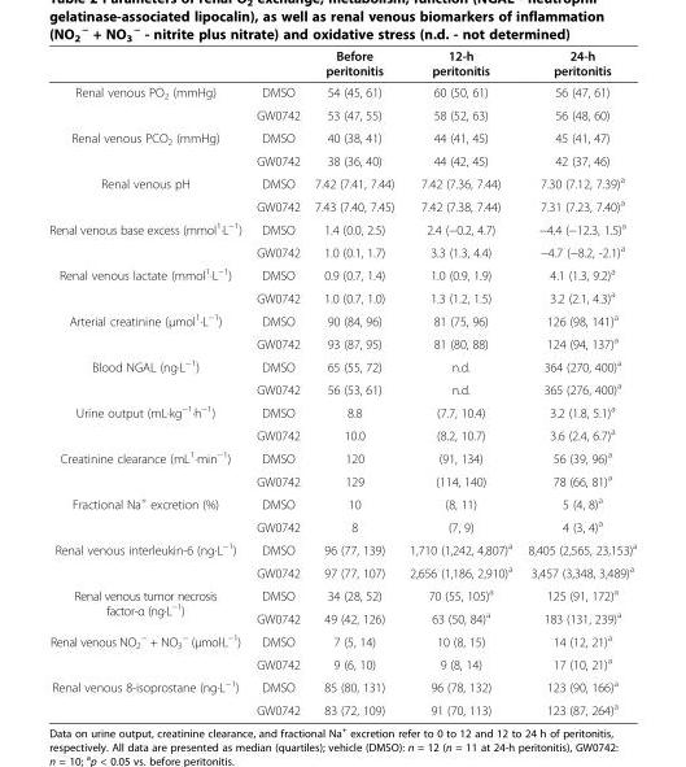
<table><thead><tr><td></td><td></td><td>Before peritonitis</td><td>12-h peritonitis</td><td>24-h peritonitis</td></tr></thead><tbody><tr><td rowspan="2">Renal venous PO<sub>2</sub> (mmHg)</td><td>DMSO</td><td>54 (45, 61)</td><td>60 (50, 61)</td><td>56 (47, 61)</td></tr><tr><td>GW0742</td><td>53 (47, 55)</td><td>58 (52, 63)</td><td>56 (48, 60)</td></tr><tr><td rowspan="2">Renal venous PCO<sub>2</sub> (mmHg)</td><td>DMSO</td><td>40 (38, 41)</td><td>44 (41, 45)</td><td>45 (41, 47)</td></tr><tr><td>GW0742</td><td>38 (36, 40)</td><td>44 (42, 45)</td><td>42 (37, 46)</td></tr><tr><td rowspan="2">Renal venous pH</td><td>DMSO</td><td>7.42 (7.41, 7.44)</td><td>7.42 (7.36, 7.44)</td><td>7.30 (7.12, 7.39)<sup>a</sup></td></tr><tr><td>GW0742</td><td>7.43 (7.40, 7.45)</td><td>7.42 (7.38, 7.44)</td><td>7.31 (7.23, 7.40)<sup>a</sup></td></tr><tr><td rowspan="2">Renal venous base excess (mmol<sup>1</sup>·L<sup>−1</sup>)</td><td>DMSO</td><td>1.4 (0.0, 2.5)</td><td>2.4 (−0.2, 4.7)</td><td>−4.4 (−12.3, 1.5)<sup>a</sup></td></tr><tr><td>GW0742</td><td>1.0 (0.1, 1.7)</td><td>3.3 (1.3, 4.4)</td><td>−4.7 (−8.2, -2.1)<sup>a</sup></td></tr><tr><td rowspan="2">Renal venous lactate (mmol<sup>1</sup>·L<sup>−1</sup>)</td><td>DMSO</td><td>0.9 (0.7, 1.4)</td><td>1.0 (0.9, 1.9)</td><td>4.1 (1.3, 9.2)<sup>a</sup></td></tr><tr><td>GW0742</td><td>1.0 (0.7, 1.0)</td><td>1.3 (1.2, 1.5)</td><td>3.2 (2.1, 4.3)<sup>a</sup></td></tr><tr><td rowspan="2">Arterial creatinine (μmol<sup>1</sup>·L<sup>−1</sup>)</td><td>DMSO</td><td>90 (84, 96)</td><td>81 (75, 96)</td><td>126 (98, 141)<sup>a</sup></td></tr><tr><td>GW0742</td><td>93 (87, 95)</td><td>81 (80, 88)</td><td>124 (94, 137)<sup>a</sup></td></tr><tr><td rowspan="2">Blood NGAL (ng·L<sup>−1</sup>)</td><td>DMSO</td><td>65 (55, 72)</td><td>n.d.</td><td>364 (270, 400)<sup>a</sup></td></tr><tr><td>GW0742</td><td>56 (53, 61)</td><td>n.d.</td><td>365 (276, 400)<sup>a</sup></td></tr><tr><td rowspan="2">Urine output (mL·kg<sup>−1</sup>·h<sup>−1</sup>)</td><td>DMSO</td><td>8.8</td><td>(7.7, 10.4)</td><td>3.2 (1.8, 5.1)<sup>a</sup></td></tr><tr><td>GW0742</td><td>10.0</td><td>(8.2, 10.7)</td><td>3.6 (2.4, 6.7)<sup>a</sup></td></tr><tr><td rowspan="2">Creatinine clearance (mL<sup>1</sup>·min<sup>−1</sup>)</td><td>DMSO</td><td>120</td><td>(91, 134)</td><td>56 (39, 96)<sup>a</sup></td></tr><tr><td>GW0742</td><td>129</td><td>(114, 140)</td><td>78 (66, 81)<sup>a</sup></td></tr><tr><td rowspan="2">Fractional Na<sup>+</sup> excretion (%)</td><td>DMSO</td><td>10</td><td>(8, 11)</td><td>5 (4, 8)<sup>a</sup></td></tr><tr><td>GW0742</td><td>8</td><td>(7, 9)</td><td>4 (3, 4)<sup>a</sup></td></tr><tr><td rowspan="2">Renal venous interleukin-6 (ng·L<sup>−1</sup>)</td><td>DMSO</td><td>96 (77, 139)</td><td>1,710 (1,242, 4,807)<sup>a</sup></td><td>8,405 (2,565, 23,153)<sup>a</sup></td></tr><tr><td>GW0742</td><td>97 (77, 107)</td><td>2,656 (1,186, 2,910)<sup>a</sup></td><td>3,457 (3,348, 3,489)<sup>a</sup></td></tr><tr><td rowspan="2">Renal venous tumor necrosis factor-α (ng·L<sup>−1</sup>)</td><td>DMSO</td><td>34 (28, 52)</td><td>70 (55, 105)<sup>a</sup></td><td>125 (91, 172)<sup>a</sup></td></tr><tr><td>GW0742</td><td>49 (42, 126)</td><td>63 (50, 84)<sup>a</sup></td><td>183 (131, 239)<sup>a</sup></td></tr><tr><td rowspan="2">Renal venous NO<sub>2</sub> <sup>−</sup> + NO<sub>3</sub> <sup>−</sup> (μmol·L<sup>−1</sup>)</td><td>DMSO</td><td>7 (5, 14)</td><td>10 (8, 15)</td><td>14 (12, 21)<sup>a</sup></td></tr><tr><td>GW0742</td><td>9 (6, 10)</td><td>9 (8, 14)</td><td>17 (10, 21)<sup>a</sup></td></tr><tr><td rowspan="2">Renal venous 8-isoprostane (ng·L<sup>−1</sup>)</td><td>DMSO</td><td>85 (80, 131)</td><td>96 (78, 132)</td><td>123 (90, 166)<sup>a</sup></td></tr><tr><td>GW0742</td><td>83 (72, 109)</td><td>91 (70, 113)</td><td>123 (87, 264)<sup>a</sup></td></tr></tbody></table>